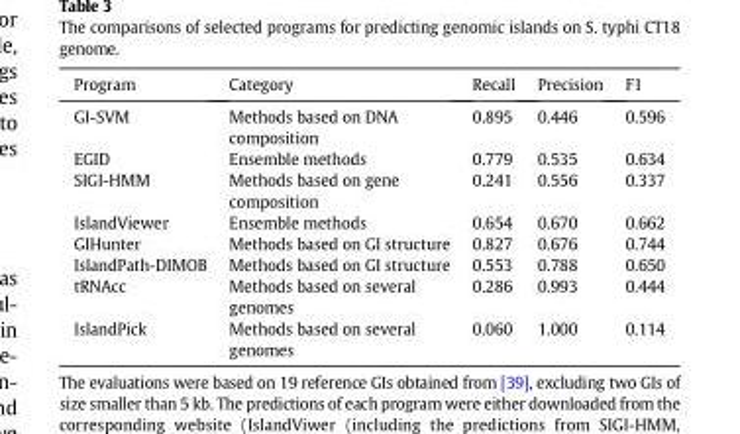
<table><thead><tr><td>Program</td><td>Category</td><td>Recall</td><td>Precision</td><td>F1</td></tr></thead><tbody><tr><td>GI-SVM</td><td>Methods based on DNA composition</td><td>0.895</td><td>0.446</td><td>0.596</td></tr><tr><td>EGID</td><td>Ensemble methods</td><td>0.779</td><td>0.535</td><td>0.634</td></tr><tr><td>SIGI-HMM</td><td>Methods based on gene composition</td><td>0.241</td><td>0.556</td><td>0.337</td></tr><tr><td>IslandViewer</td><td>Ensemble methods</td><td>0.654</td><td>0.670</td><td>0.662</td></tr><tr><td>GIHunter</td><td>Methods based on GI structure</td><td>0.827</td><td>0.676</td><td>0.744</td></tr><tr><td>IslandPath-DIMOB</td><td>Methods based on GI structure</td><td>0.553</td><td>0.788</td><td>0.650</td></tr><tr><td>tRNAcc</td><td>Methods based on several genomes</td><td>0.286</td><td>0.993</td><td>0.444</td></tr><tr><td>IslandPick</td><td>Methods based on several genomes</td><td>0.060</td><td>1.000</td><td>0.114</td></tr></tbody></table>